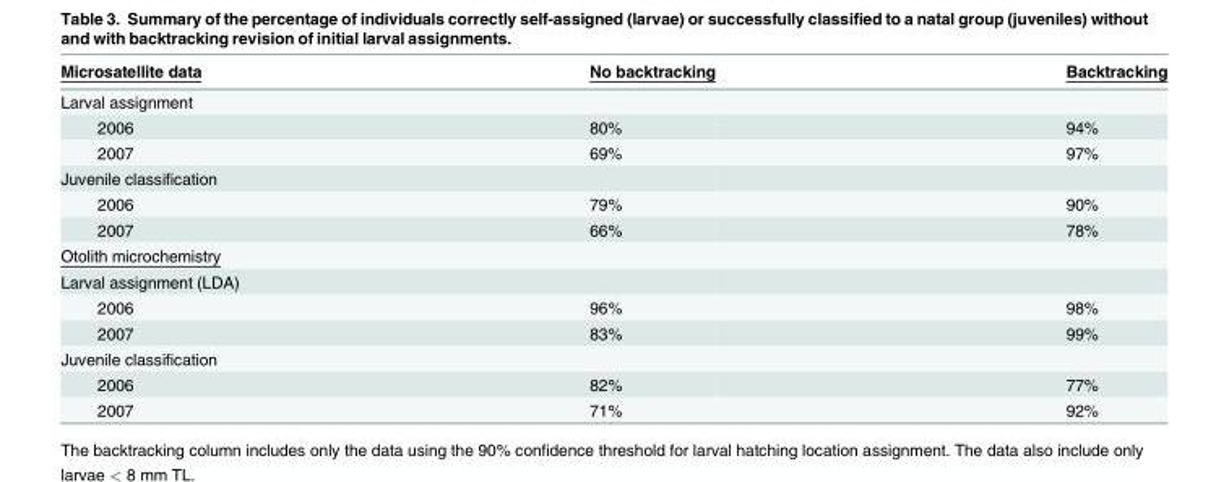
<table><thead><tr><td>Microsatellite data</td><td>No backtracking</td><td>Backtracking</td></tr></thead><tbody><tr><td colspan="3">Larval assignment</td></tr><tr><td>2006</td><td>80%</td><td>94%</td></tr><tr><td>2007</td><td>69%</td><td>97%</td></tr><tr><td colspan="3">Juvenile classification</td></tr><tr><td>2006</td><td>79%</td><td>90%</td></tr><tr><td>2007</td><td>66%</td><td>78%</td></tr><tr><td colspan="3">Otolith microchemistry</td></tr><tr><td colspan="3">Larval assignment (LDA)</td></tr><tr><td>2006</td><td>96%</td><td>98%</td></tr><tr><td>2007</td><td>83%</td><td>99%</td></tr><tr><td colspan="3">Juvenile classification</td></tr><tr><td>2006</td><td>82%</td><td>77%</td></tr><tr><td>2007</td><td>71%</td><td>92%</td></tr></tbody></table>